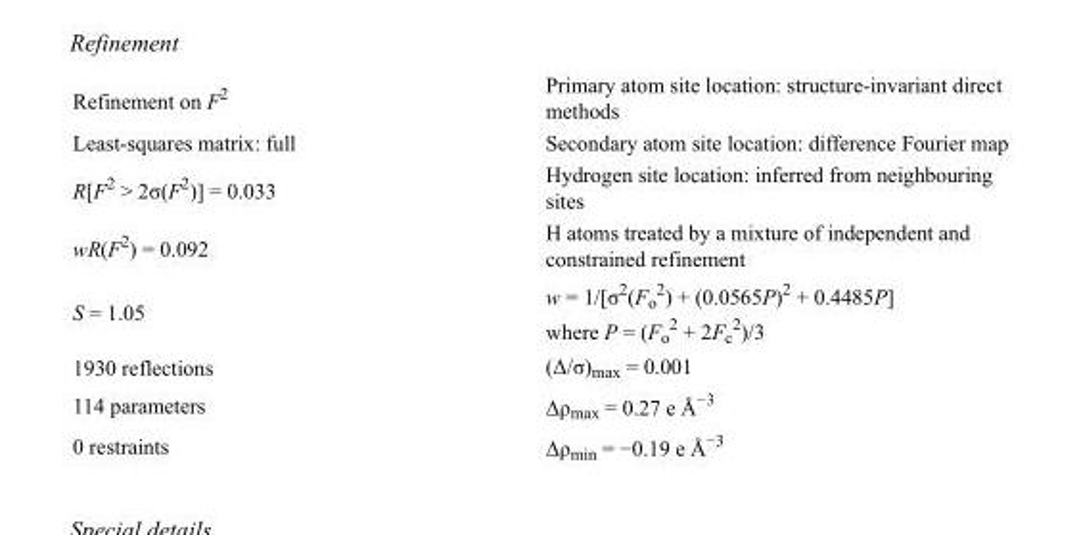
<table><tbody><tr><td>Refinement on F<sup>2</sup></td><td>Primary atom site location: structure-invariant direct methods</td></tr><tr><td>Least-squares matrix: full</td><td>Secondary atom site location: difference Fourier map</td></tr><tr><td>R[F<sup>2</sup> &gt; 2σ(F<sup>2</sup>)] = 0.033</td><td>Hydrogen site location: inferred from neighbouring sites</td></tr><tr><td>wR(F<sup>2</sup>) = 0.092</td><td>H atoms treated by a mixture of independent and constrained refinement</td></tr><tr><td>S = 1.05</td><td>w = 1/[σ<sup>2</sup>(F<sub>o</sub> <sup>2</sup>) + (0.0565P)<sup>2</sup> + 0.4485P] where P = (F<sub>o</sub> <sup>2</sup> + 2F<sub>c</sub> <sup>2</sup>)/3</td></tr><tr><td>1930 reflections</td><td>(Δ/σ)<sub>max</sub> = 0.001</td></tr><tr><td>114 parameters</td><td>Δρ<sub>max</sub> = 0.27 e Å<sup>−3</sup></td></tr><tr><td>0 restraints</td><td>Δρ<sub>min</sub> = −0.19 e Å<sup>−3</sup></td></tr></tbody></table>